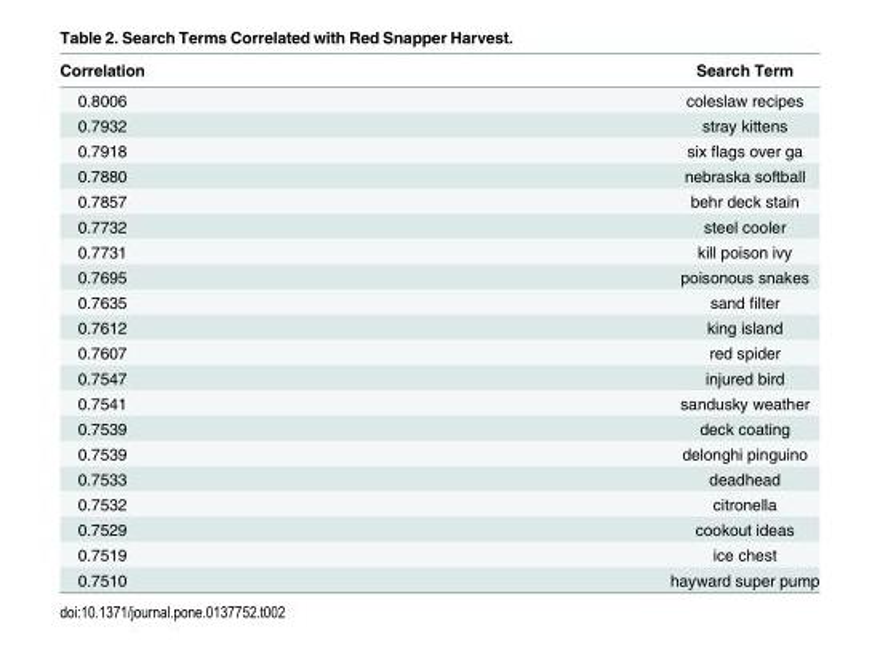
<table><thead><tr><td>Correlation</td><td>Search Term</td></tr></thead><tbody><tr><td>0.8006</td><td>coleslaw recipes</td></tr><tr><td>0.7932</td><td>stray kittens</td></tr><tr><td>0.7918</td><td>six flags over ga</td></tr><tr><td>0.7880</td><td>nebraska softball</td></tr><tr><td>0.7857</td><td>behr deck stain</td></tr><tr><td>0.7732</td><td>steel cooler</td></tr><tr><td>0.7731</td><td>kill poison ivy</td></tr><tr><td>0.7695</td><td>poisonous snakes</td></tr><tr><td>0.7635</td><td>sand filter</td></tr><tr><td>0.7612</td><td>king island</td></tr><tr><td>0.7607</td><td>red spider</td></tr><tr><td>0.7547</td><td>injured bird</td></tr><tr><td>0.7541</td><td>sandusky weather</td></tr><tr><td>0.7539</td><td>deck coating</td></tr><tr><td>0.7539</td><td>delonghi pinguino</td></tr><tr><td>0.7533</td><td>deadhead</td></tr><tr><td>0.7532</td><td>citronella</td></tr><tr><td>0.7529</td><td>cookout ideas</td></tr><tr><td>0.7519</td><td>ice chest</td></tr><tr><td>0.7510</td><td>hayward super pump</td></tr></tbody></table>